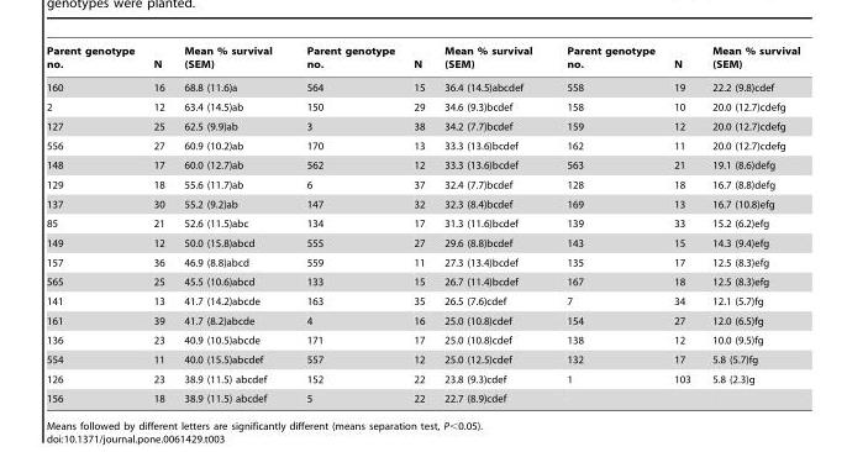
<table><thead><tr><td>Parent genotype no.</td><td>N</td><td>Mean % survival (SEM)</td><td>Parent genotype no.</td><td>N</td><td>Mean % survival (SEM)</td><td>Parent genotype no.</td><td>N</td><td>Mean % survival (SEM)</td></tr></thead><tbody><tr><td>160</td><td>16</td><td>68.8 (11.6)a</td><td>564</td><td>15</td><td>36.4 (14.5)abcdef</td><td>558</td><td>19</td><td>22.2 (9.8)cdef</td></tr><tr><td>2</td><td>12</td><td>63.4 (14.5)ab</td><td>150</td><td>29</td><td>34.6 (9.3)bcdef</td><td>158</td><td>10</td><td>20.0 (12.7)cdefg</td></tr><tr><td>127</td><td>25</td><td>62.5 (9.9)ab</td><td>3</td><td>38</td><td>34.2 (7.7)bcdef</td><td>159</td><td>12</td><td>20.0 (12.7)cdefg</td></tr><tr><td>556</td><td>27</td><td>60.9 (10.2)ab</td><td>170</td><td>13</td><td>33.3 (13.6)bcdef</td><td>162</td><td>11</td><td>20.0 (12.7)cdefg</td></tr><tr><td>148</td><td>17</td><td>60.0 (12.7)ab</td><td>562</td><td>12</td><td>33.3 (13.6)bcdef</td><td>563</td><td>21</td><td>19.1 (8.6)defg</td></tr><tr><td>129</td><td>18</td><td>55.6 (11.7)ab</td><td>6</td><td>37</td><td>32.4 (7.7)bcdef</td><td>128</td><td>18</td><td>16.7 (8.8)defg</td></tr><tr><td>137</td><td>30</td><td>55.2 (9.2)ab</td><td>147</td><td>32</td><td>32.3 (8.4)bcdef</td><td>169</td><td>13</td><td>16.7 (10.8)efg</td></tr><tr><td>85</td><td>21</td><td>52.6 (11.5)abc</td><td>134</td><td>17</td><td>31.3 (11.6)bcdef</td><td>139</td><td>33</td><td>15.2 (6.2)efg</td></tr><tr><td>149</td><td>12</td><td>50.0 (15.8)abcd</td><td>555</td><td>27</td><td>29.6 (8.8)bcdef</td><td>143</td><td>15</td><td>14.3 (9.4)efg</td></tr><tr><td>157</td><td>36</td><td>46.9 (8.8)abcd</td><td>559</td><td>11</td><td>27.3 (13.4)bcdef</td><td>135</td><td>17</td><td>12.5 (8.3)efg</td></tr><tr><td>565</td><td>25</td><td>45.5 (10.6)abcd</td><td>133</td><td>15</td><td>26.7 (11.4)bcdef</td><td>167</td><td>18</td><td>12.5 (8.3)efg</td></tr><tr><td>141</td><td>13</td><td>41.7 (14.2)abcde</td><td>163</td><td>35</td><td>26.5 (7.6)cdef</td><td>7</td><td>34</td><td>12.1 (5.7)fg</td></tr><tr><td>161</td><td>39</td><td>41.7 (8.2)abcde</td><td>4</td><td>16</td><td>25.0 (10.8)cdef</td><td>154</td><td>27</td><td>12.0 (6.5)fg</td></tr><tr><td>136</td><td>23</td><td>40.9 (10.5)abcde</td><td>171</td><td>17</td><td>25.0 (10.8)cdef</td><td>138</td><td>12</td><td>10.0 (9.5)fg</td></tr><tr><td>554</td><td>11</td><td>40.0 (15.5)abcdef</td><td>557</td><td>12</td><td>25.0 (12.5)cdef</td><td>132</td><td>17</td><td>5.8 (5.7)fg</td></tr><tr><td>126</td><td>23</td><td>38.9 (11.5) abcdef</td><td>152</td><td>22</td><td>23.8 (9.3)cdef</td><td>1</td><td>103</td><td>5.8 (2.3)g</td></tr><tr><td>156</td><td>18</td><td>38.9 (11.5) abcdef</td><td>5</td><td>22</td><td>22.7 (8.9)cdef</td><td></td><td></td><td></td></tr></tbody></table>